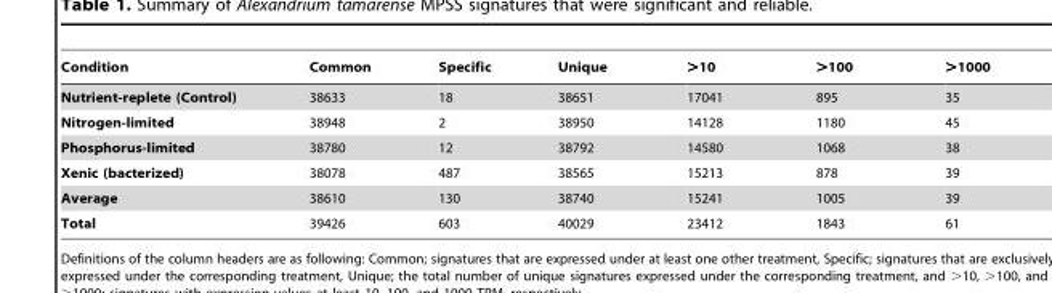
<table><thead><tr><td>Condition</td><td>Common</td><td>Specific</td><td>Unique</td><td>&gt;10</td><td>&gt;100</td><td>&gt;1000</td></tr></thead><tbody><tr><td>Nutrient-replete (Control)</td><td>38633</td><td>18</td><td>38651</td><td>17041</td><td>895</td><td>35</td></tr><tr><td>Nitrogen-limited</td><td>38948</td><td>2</td><td>38950</td><td>14128</td><td>1180</td><td>45</td></tr><tr><td>Phosphorus-limited</td><td>38780</td><td>12</td><td>38792</td><td>14580</td><td>1068</td><td>38</td></tr><tr><td>Xenic (bacterized)</td><td>38078</td><td>487</td><td>38565</td><td>15213</td><td>878</td><td>39</td></tr><tr><td>Average</td><td>38610</td><td>130</td><td>38740</td><td>15241</td><td>1005</td><td>39</td></tr><tr><td>Total</td><td>39426</td><td>603</td><td>40029</td><td>23412</td><td>1843</td><td>61</td></tr></tbody></table>